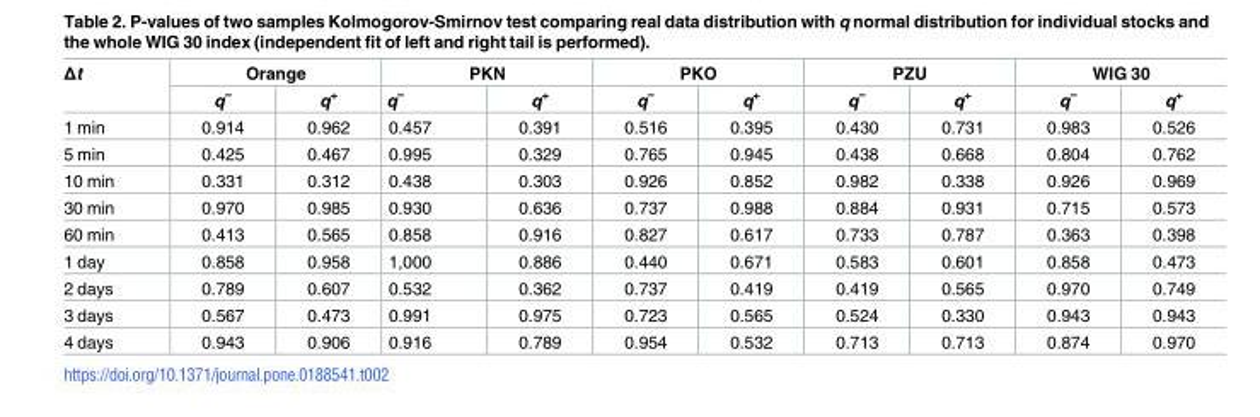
<table><thead><tr><td rowspan="2">Δt</td><td colspan="2">Orange</td><td colspan="2">PKN</td><td colspan="2">PKO</td><td colspan="2">PZU</td><td colspan="2">WIG 30</td></tr><tr><td>q<sup>−</sup></td><td>q<sup>+</sup></td><td>q<sup>−</sup></td><td>q<sup>+</sup></td><td>q<sup>−</sup></td><td>q<sup>+</sup></td><td>q<sup>−</sup></td><td>q<sup>+</sup></td><td>q<sup>−</sup></td><td>q<sup>+</sup></td></tr></thead><tbody><tr><td>1 min</td><td>0.914</td><td>0.962</td><td>0.457</td><td>0.391</td><td>0.516</td><td>0.395</td><td>0.430</td><td>0.731</td><td>0.983</td><td>0.526</td></tr><tr><td>5 min</td><td>0.425</td><td>0.467</td><td>0.995</td><td>0.329</td><td>0.765</td><td>0.945</td><td>0.438</td><td>0.668</td><td>0.804</td><td>0.762</td></tr><tr><td>10 min</td><td>0.331</td><td>0.312</td><td>0.438</td><td>0.303</td><td>0.926</td><td>0.852</td><td>0.982</td><td>0.338</td><td>0.926</td><td>0.969</td></tr><tr><td>30 min</td><td>0.970</td><td>0.985</td><td>0.930</td><td>0.636</td><td>0.737</td><td>0.988</td><td>0.884</td><td>0.931</td><td>0.715</td><td>0.573</td></tr><tr><td>60 min</td><td>0.413</td><td>0.565</td><td>0.858</td><td>0.916</td><td>0.827</td><td>0.617</td><td>0.733</td><td>0.787</td><td>0.363</td><td>0.398</td></tr><tr><td>1 day</td><td>0.858</td><td>0.958</td><td>1,000</td><td>0.886</td><td>0.440</td><td>0.671</td><td>0.583</td><td>0.601</td><td>0.858</td><td>0.473</td></tr><tr><td>2 days</td><td>0.789</td><td>0.607</td><td>0.532</td><td>0.362</td><td>0.737</td><td>0.419</td><td>0.419</td><td>0.565</td><td>0.970</td><td>0.749</td></tr><tr><td>3 days</td><td>0.567</td><td>0.473</td><td>0.991</td><td>0.975</td><td>0.723</td><td>0.565</td><td>0.524</td><td>0.330</td><td>0.943</td><td>0.943</td></tr><tr><td>4 days</td><td>0.943</td><td>0.906</td><td>0.916</td><td>0.789</td><td>0.954</td><td>0.532</td><td>0.713</td><td>0.713</td><td>0.874</td><td>0.970</td></tr></tbody></table>